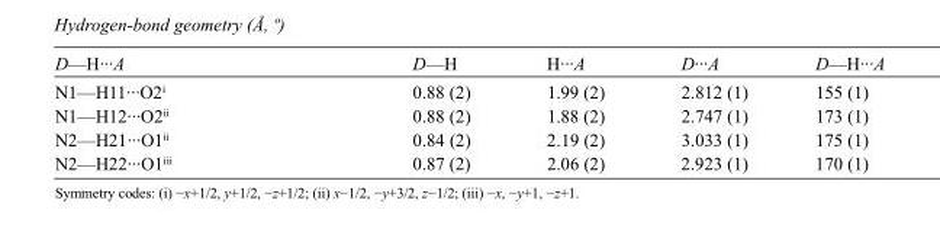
<table><tbody><tr><td>D—H···A</td><td>D—H</td><td>H···A</td><td>D···A</td><td>D—H···A</td></tr><tr><td>N1—H11···O2<sup>i</sup></td><td>0.88 (2)</td><td>1.99 (2)</td><td>2.812 (1)</td><td>155 (1)</td></tr><tr><td>N1—H12···O2<sup>ii</sup></td><td>0.88 (2)</td><td>1.88 (2)</td><td>2.747 (1)</td><td>173 (1)</td></tr><tr><td>N2—H21···O1<sup>ii</sup></td><td>0.84 (2)</td><td>2.19 (2)</td><td>3.033 (1)</td><td>175 (1)</td></tr><tr><td>N2—H22···O1<sup>iii</sup></td><td>0.87 (2)</td><td>2.06 (2)</td><td>2.923 (1)</td><td>170 (1)</td></tr></tbody></table>